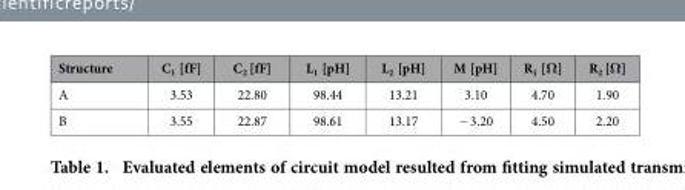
<table><thead><tr><td>Structure</td><td>C<sub>1</sub> [fF]</td><td>C<sub>2</sub> [fF]</td><td>L<sub>1</sub> [pH]</td><td>L<sub>2</sub> [pH]</td><td>M [pH]</td><td>R<sub>1</sub> [Ω]</td><td>R<sub>2</sub> [Ω]</td></tr></thead><tbody><tr><td>A</td><td>3.53</td><td>22.80</td><td>98.44</td><td>13.21</td><td>3.10</td><td>4.70</td><td>1.90</td></tr><tr><td>B</td><td>3.55</td><td>22.87</td><td>98.61</td><td>13.17</td><td>− 3.20</td><td>4.50</td><td>2.20</td></tr></tbody></table>